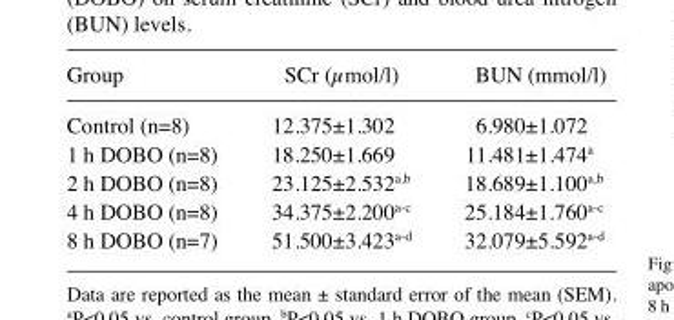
<table><thead><tr><td>Group</td><td>SCr (µmol/l)</td><td>BUN (mmol/l)</td></tr></thead><tbody><tr><td>Control (n=8)</td><td>12.375±1.302</td><td>6.980±1.072</td></tr><tr><td>1 h DOBO (n=8)</td><td>18.250±1.669</td><td>11.481±1.474<sup>a</sup></td></tr><tr><td>2 h DOBO (n=8)</td><td>23.125±2.532<sup>a,b</sup></td><td>18.689±1.100<sup>a,b</sup></td></tr><tr><td>4 h DOBO (n=8)</td><td>34.375±2.200<sup>a-c</sup></td><td>25.184±1.760<sup>a-c</sup></td></tr><tr><td>8 h DOBO (n=7)</td><td>51.500±3.423<sup>a-d</sup></td><td>32.079±5.592<sup>a-d</sup></td></tr></tbody></table>